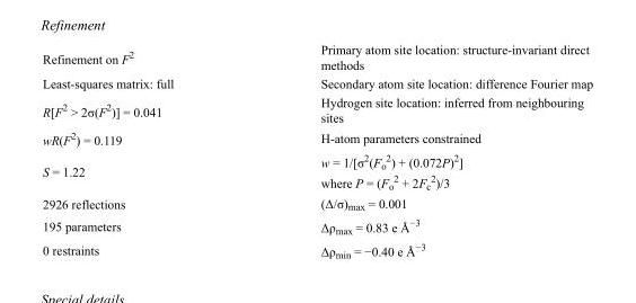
<table><tbody><tr><td>Refinement on F<sup>2</sup></td><td>Primary atom site location: structure-invariant direct methods</td></tr><tr><td>Least-squares matrix: full</td><td>Secondary atom site location: difference Fourier map</td></tr><tr><td>R[F<sup>2</sup> &gt; 2σ(F<sup>2</sup>)] = 0.041</td><td>Hydrogen site location: inferred from neighbouring sites</td></tr><tr><td>wR(F<sup>2</sup>) = 0.119</td><td>H-atom parameters constrained</td></tr><tr><td>S = 1.22</td><td>w = 1/[σ<sup>2</sup>(F<sub>o</sub> <sup>2</sup>) + (0.072P)<sup>2</sup>] where P = (F<sub>o</sub> <sup>2</sup> + 2F<sub>c</sub> <sup>2</sup>)/3</td></tr><tr><td>2926 reflections</td><td>(Δ/σ)<sub>max</sub> = 0.001</td></tr><tr><td>195 parameters</td><td>Δρ<sub>max</sub> = 0.83 e Å<sup>−3</sup></td></tr><tr><td>0 restraints</td><td>Δρ<sub>min</sub> = −0.40 e Å<sup>−3</sup></td></tr></tbody></table>